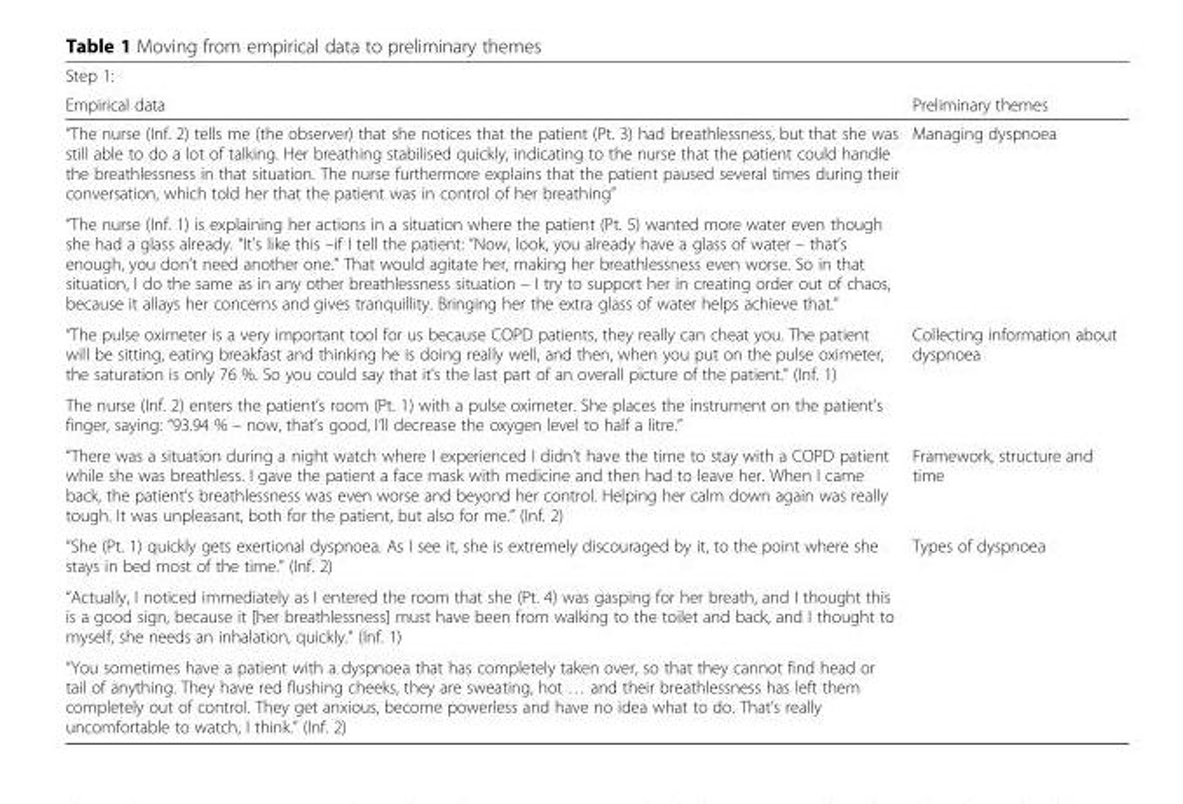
<table><thead><tr><td rowspan="2">Step 1: Empirical data</td><td rowspan="2">Preliminary themes</td></tr><tr></tr></thead><tbody><tr><td>“The nurse (Inf. 2) tells me (the observer) that she notices that the patient (Pt. 3) had breathlessness, but that she was still able to do a lot of talking. Her breathing stabilised quickly, indicating to the nurse that the patient could handle the breathlessness in that situation. The nurse furthermore explains that the patient paused several times during their conversation, which told her that the patient was in control of her breathing”</td><td rowspan="2">Managing dyspnoea</td></tr><tr><td>“The nurse (Inf. 1) is explaining her actions in a situation where the patient (Pt. 5) wanted more water even though she had a glass already. “It’s like this –if I tell the patient: “Now, look, you already have a glass of water – that’s enough, you don’t need another one.” That would agitate her, making her breathlessness even worse. So in that situation, I do the same as in any other breathlessness situation – I try to support her in creating order out of chaos, because it allays her concerns and gives tranquillity. Bringing her the extra glass of water helps achieve that.”</td></tr><tr><td>“The pulse oximeter is a very important tool for us because COPD patients, they really can cheat you. The patient will be sitting, eating breakfast and thinking he is doing really well, and then, when you put on the pulse oximeter, the saturation is only 76 %. So you could say that it’s the last part of an overall picture of the patient.” (Inf. 1)</td><td rowspan="2">Collecting information about dyspnoea</td></tr><tr><td>The nurse (Inf. 2) enters the patient’s room (Pt. 1) with a pulse oximeter. She places the instrument on the patient’s finger, saying: “93.94 % – now, that’s good, I’ll decrease the oxygen level to half a litre.”</td></tr><tr><td>“There was a situation during a night watch where I experienced I didn’t have the time to stay with a COPD patient while she was breathless. I gave the patient a face mask with medicine and then had to leave her. When I came back, the patient’s breathlessness was even worse and beyond her control. Helping her calm down again was really tough. It was unpleasant, both for the patient, but also for me.” (Inf. 2)</td><td>Framework, structure and time</td></tr><tr><td>“She (Pt. 1) quickly gets exertional dyspnoea. As I see it, she is extremely discouraged by it, to the point where she stays in bed most of the time.” (Inf. 2)</td><td rowspan="3">Types of dyspnoea</td></tr><tr><td>“Actually, I noticed immediately as I entered the room that she (Pt. 4) was gasping for her breath, and I thought this is a good sign, because it [her breathlessness] must have been from walking to the toilet and back, and I thought to myself, she needs an inhalation, quickly.” (Inf. 1)</td></tr><tr><td>“You sometimes have a patient with a dyspnoea that has completely taken over, so that they cannot find head or tail of anything. They have red flushing cheeks, they are sweating, hot … and their breathlessness has left them completely out of control. They get anxious, become powerless and have no idea what to do. That’s really uncomfortable to watch, I think.” (Inf. 2)</td></tr></tbody></table>